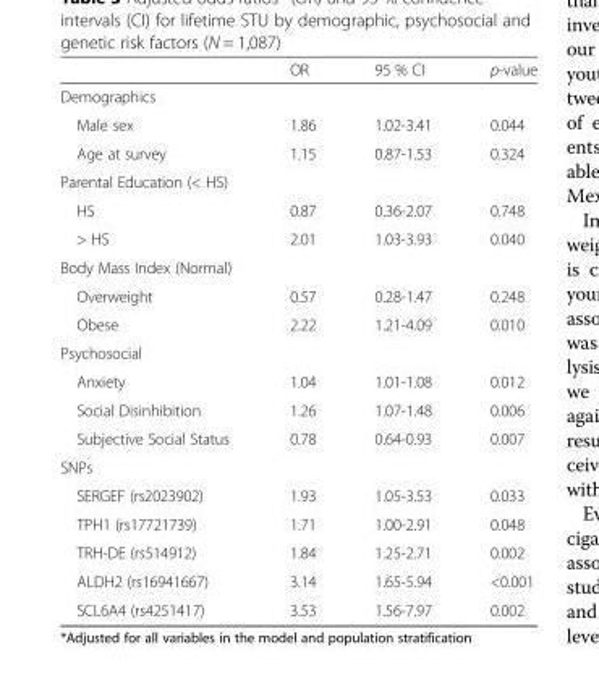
<table><thead><tr><td></td><td>OR</td><td>95 % CI</td><td>p-value</td></tr></thead><tbody><tr><td colspan="4">Demographics</td></tr><tr><td>Male sex</td><td>1.86</td><td>1.02-3.41</td><td>0.044</td></tr><tr><td>Age at survey</td><td>1.15</td><td>0.87-1.53</td><td>0.324</td></tr><tr><td colspan="4">Parental Education (&lt; HS)</td></tr><tr><td>HS</td><td>0.87</td><td>0.36-2.07</td><td>0.748</td></tr><tr><td>&gt; HS</td><td>2.01</td><td>1.03-3.93</td><td>0.040</td></tr><tr><td colspan="4">Body Mass Index (Normal)</td></tr><tr><td>Overweight</td><td>0.57</td><td>0.28-1.47</td><td>0.248</td></tr><tr><td>Obese</td><td>2.22</td><td>1.21-4.09</td><td>0.010</td></tr><tr><td colspan="4">Psychosocial</td></tr><tr><td>Anxiety</td><td>1.04</td><td>1.01-1.08</td><td>0.012</td></tr><tr><td>Social Disinhibition</td><td>1.26</td><td>1.07-1.48</td><td>0.006</td></tr><tr><td>Subjective Social Status</td><td>0.78</td><td>0.64-0.93</td><td>0.007</td></tr><tr><td colspan="4">SNPs</td></tr><tr><td>SERGEF (rs2023902)</td><td>1.93</td><td>1.05-3.53</td><td>0.033</td></tr><tr><td>TPH1 (rs17721739)</td><td>1.71</td><td>1.00-2.91</td><td>0.048</td></tr><tr><td>TRH-DE (rs514912)</td><td>1.84</td><td>1.25-2.71</td><td>0.002</td></tr><tr><td>ALDH2 (rs16941667)</td><td>3.14</td><td>1.65-5.94</td><td>&lt;0.001</td></tr><tr><td>SCL6A4 (rs4251417)</td><td>3.53</td><td>1.56-7.97</td><td>0.002</td></tr></tbody></table>